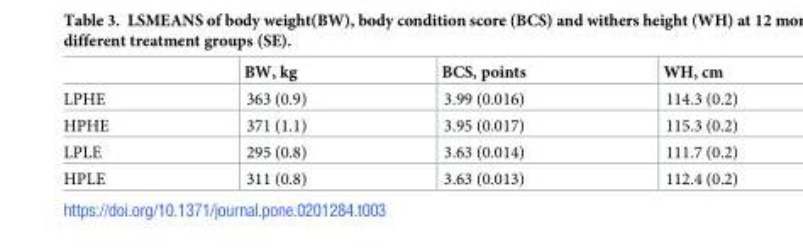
<table><thead><tr><td></td><td>BW, kg</td><td>BCS, points</td><td>WH, cm</td></tr></thead><tbody><tr><td>LPHE</td><td>363 (0.9)</td><td>3.99 (0.016)</td><td>114.3 (0.2)</td></tr><tr><td>HPHE</td><td>371 (1.1)</td><td>3.95 (0.017)</td><td>115.3 (0.2)</td></tr><tr><td>LPLE</td><td>295 (0.8)</td><td>3.63 (0.014)</td><td>111.7 (0.2)</td></tr><tr><td>HPLE</td><td>311 (0.8)</td><td>3.63 (0.013)</td><td>112.4 (0.2)</td></tr></tbody></table>